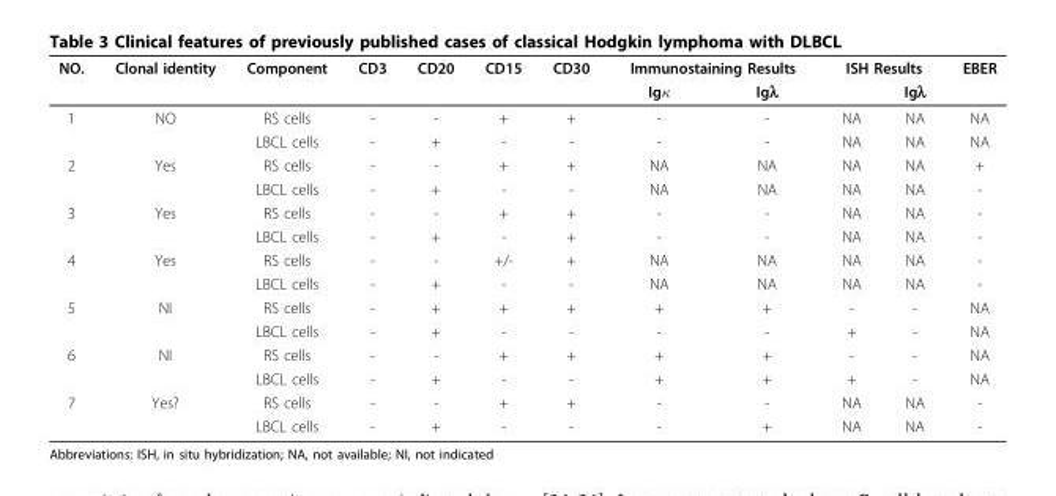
<table><thead><tr><td rowspan="2">NO.</td><td rowspan="2">Clonal identity</td><td rowspan="2">Component</td><td rowspan="2">CD3</td><td rowspan="2">CD20</td><td rowspan="2">CD15</td><td rowspan="2">CD30</td><td colspan="2">Immunostaining Results</td><td colspan="2">ISH Results</td><td rowspan="2">EBER</td></tr><tr><td>Igκ</td><td>Igλ</td><td></td><td>Igλ</td></tr></thead><tbody><tr><td rowspan="2">1</td><td>NO</td><td>RS cells</td><td>-</td><td>-</td><td>+</td><td>+</td><td>-</td><td>-</td><td>NA</td><td>NA</td><td>NA</td></tr><tr><td></td><td>LBCL cells</td><td>-</td><td>+</td><td>-</td><td>-</td><td>-</td><td>-</td><td>NA</td><td>NA</td><td>NA</td></tr><tr><td rowspan="2">2</td><td>Yes</td><td>RS cells</td><td>-</td><td>-</td><td>+</td><td>+</td><td>NA</td><td>NA</td><td>NA</td><td>NA</td><td>+</td></tr><tr><td></td><td>LBCL cells</td><td>-</td><td>+</td><td>-</td><td>-</td><td>NA</td><td>NA</td><td>NA</td><td>NA</td><td>-</td></tr><tr><td rowspan="2">3</td><td>Yes</td><td>RS cells</td><td>-</td><td>-</td><td>+</td><td>+</td><td>-</td><td>-</td><td>NA</td><td>NA</td><td>-</td></tr><tr><td></td><td>LBCL cells</td><td>-</td><td>+</td><td>-</td><td>+</td><td>-</td><td>-</td><td>NA</td><td>NA</td><td>-</td></tr><tr><td rowspan="2">4</td><td>Yes</td><td>RS cells</td><td>-</td><td>-</td><td>+/-</td><td>+</td><td>NA</td><td>NA</td><td>NA</td><td>NA</td><td>-</td></tr><tr><td></td><td>LBCL cells</td><td>-</td><td>+</td><td>-</td><td>-</td><td>NA</td><td>NA</td><td>NA</td><td>NA</td><td>-</td></tr><tr><td rowspan="2">5</td><td>NI</td><td>RS cells</td><td>-</td><td>+</td><td>+</td><td>+</td><td>+</td><td>+</td><td>-</td><td>-</td><td>NA</td></tr><tr><td></td><td>LBCL cells</td><td>-</td><td>+</td><td>-</td><td>-</td><td>-</td><td>-</td><td>+</td><td>-</td><td>NA</td></tr><tr><td rowspan="2">6</td><td>NI</td><td>RS cells</td><td>-</td><td>-</td><td>+</td><td>+</td><td>+</td><td>+</td><td>-</td><td>-</td><td>NA</td></tr><tr><td></td><td>LBCL cells</td><td>-</td><td>+</td><td>-</td><td>-</td><td>+</td><td>+</td><td>+</td><td>-</td><td>NA</td></tr><tr><td rowspan="2">7</td><td>Yes?</td><td>RS cells</td><td>-</td><td>-</td><td>+</td><td>+</td><td>-</td><td>-</td><td>NA</td><td>NA</td><td>-</td></tr><tr><td></td><td>LBCL cells</td><td>-</td><td>+</td><td>-</td><td>-</td><td>-</td><td>+</td><td>NA</td><td>NA</td><td>-</td></tr></tbody></table>